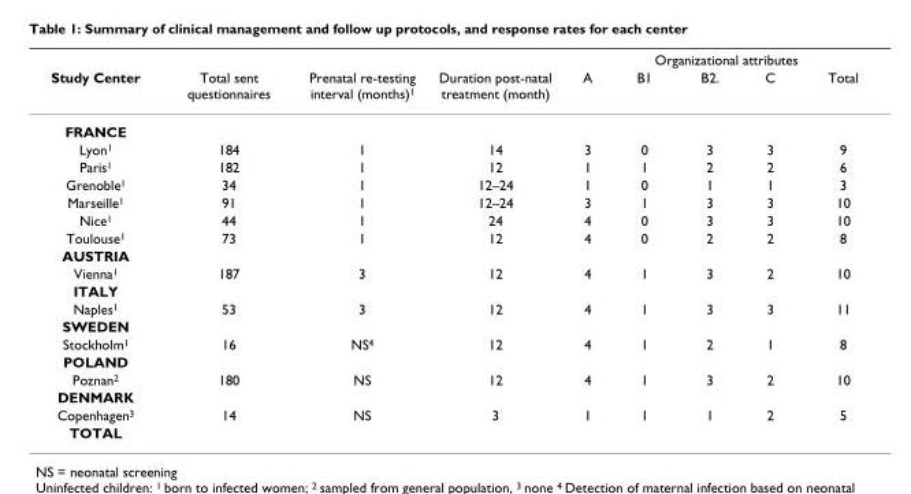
<table><thead><tr><td rowspan="2">Study Center</td><td rowspan="2">Total sent questionnaires</td><td rowspan="2">Prenatal re-testing interval (months)<sup>1</sup></td><td rowspan="2">Duration post-natal treatment (month)</td><td colspan="5">Organizational attributes</td></tr><tr><td>A</td><td>B1</td><td>B2.</td><td>C</td><td>Total</td></tr></thead><tbody><tr><td colspan="9">FRANCE</td></tr><tr><td>Lyon<sup>1</sup></td><td>184</td><td>1</td><td>14</td><td>3</td><td>0</td><td>3</td><td>3</td><td>9</td></tr><tr><td>Paris<sup>1</sup></td><td>182</td><td>1</td><td>12</td><td>1</td><td>1</td><td>2</td><td>2</td><td>6</td></tr><tr><td>Grenoble<sup>1</sup></td><td>34</td><td>1</td><td>12–24</td><td>1</td><td>0</td><td>1</td><td>1</td><td>3</td></tr><tr><td>Marseille<sup>1</sup></td><td>91</td><td>1</td><td>12–24</td><td>3</td><td>1</td><td>3</td><td>3</td><td>10</td></tr><tr><td>Nice<sup>1</sup></td><td>44</td><td>1</td><td>24</td><td>4</td><td>0</td><td>3</td><td>3</td><td>10</td></tr><tr><td>Toulouse<sup>1</sup></td><td>73</td><td>1</td><td>12</td><td>4</td><td>0</td><td>2</td><td>2</td><td>8</td></tr><tr><td colspan="9">AUSTRIA</td></tr><tr><td>Vienna<sup>1</sup></td><td>187</td><td>3</td><td>12</td><td>4</td><td>1</td><td>3</td><td>2</td><td>10</td></tr><tr><td colspan="9">ITALY</td></tr><tr><td>Naples<sup>1</sup></td><td>53</td><td>3</td><td>12</td><td>4</td><td>1</td><td>3</td><td>3</td><td>11</td></tr><tr><td colspan="9">SWEDEN</td></tr><tr><td>Stockholm<sup>1</sup></td><td>16</td><td>NS<sup>4</sup></td><td>12</td><td>4</td><td>1</td><td>2</td><td>1</td><td>8</td></tr><tr><td colspan="9">POLAND</td></tr><tr><td>Poznan<sup>2</sup></td><td>180</td><td>NS</td><td>12</td><td>4</td><td>1</td><td>3</td><td>2</td><td>10</td></tr><tr><td colspan="9">DENMARK</td></tr><tr><td>Copenhagen<sup>3</sup></td><td>14</td><td>NS</td><td>3</td><td>1</td><td>1</td><td>1</td><td>2</td><td>5</td></tr><tr><td>TOTAL</td><td></td><td></td><td></td><td></td><td></td><td></td><td></td><td></td></tr></tbody></table>